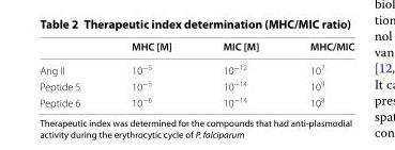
<table><thead><tr><td></td><td>MHC [M]</td><td>MIC [M]</td><td>MHC/MIC</td></tr></thead><tbody><tr><td>Ang II</td><td>10<sup>−5</sup></td><td>10<sup>−12</sup></td><td>10<sup>7</sup></td></tr><tr><td>Peptide 5</td><td>10<sup>−5</sup></td><td>10<sup>−14</sup></td><td>10<sup>9</sup></td></tr><tr><td>Peptide 6</td><td>10<sup>−6</sup></td><td>10<sup>−14</sup></td><td>10<sup>8</sup></td></tr></tbody></table>